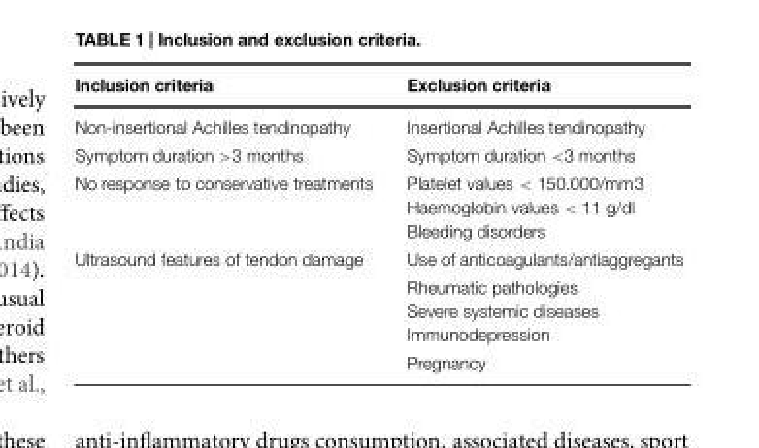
<table><thead><tr><td>Inclusion criteria</td><td>Exclusion criteria</td></tr></thead><tbody><tr><td>Non-insertional Achilles tendinopathy</td><td>Insertional Achilles tendinopathy</td></tr><tr><td>Symptom duration &gt;3 months</td><td>Symptom duration &lt;3 months</td></tr><tr><td rowspan="3">No response to conservative treatments</td><td>Platelet values &lt; 150.000/mm3</td></tr><tr><td>Haemoglobin values &lt; 11 g/dl</td></tr><tr><td>Bleeding disorders</td></tr><tr><td rowspan="5">Ultrasound features of tendon damage</td><td>Use of anticoagulants/antiaggregants</td></tr><tr><td>Rheumatic pathologies</td></tr><tr><td>Severe systemic diseases</td></tr><tr><td>Immunodepression</td></tr><tr><td>Pregnancy</td></tr></tbody></table>